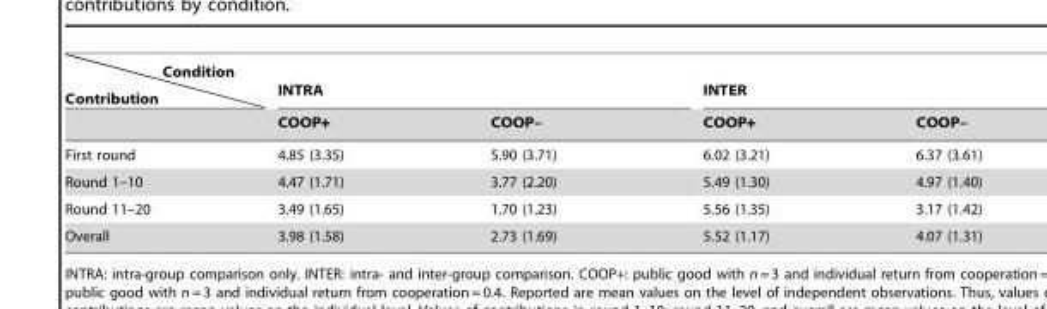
<table><thead><tr><td rowspan="2">Condition Contribution</td><td colspan="2">INTRA</td><td colspan="2">INTER</td></tr><tr><td>COOP+</td><td>COOP–</td><td>COOP+</td><td>COOP–</td></tr></thead><tbody><tr><td>First round</td><td>4.85 (3.35)</td><td>5.90 (3.71)</td><td>6.02 (3.21)</td><td>6.37 (3.61)</td></tr><tr><td>Round 1–10</td><td>4.47 (1.71)</td><td>3.77 (2.20)</td><td>5.49 (1.30)</td><td>4.97 (1.40)</td></tr><tr><td>Round 11–20</td><td>3.49 (1.65)</td><td>1.70 (1.23)</td><td>5.56 (1.35)</td><td>3.17 (1.42)</td></tr><tr><td>Overall</td><td>3.98 (1.58)</td><td>2.73 (1.69)</td><td>5.52 (1.17)</td><td>4.07 (1.31)</td></tr></tbody></table>